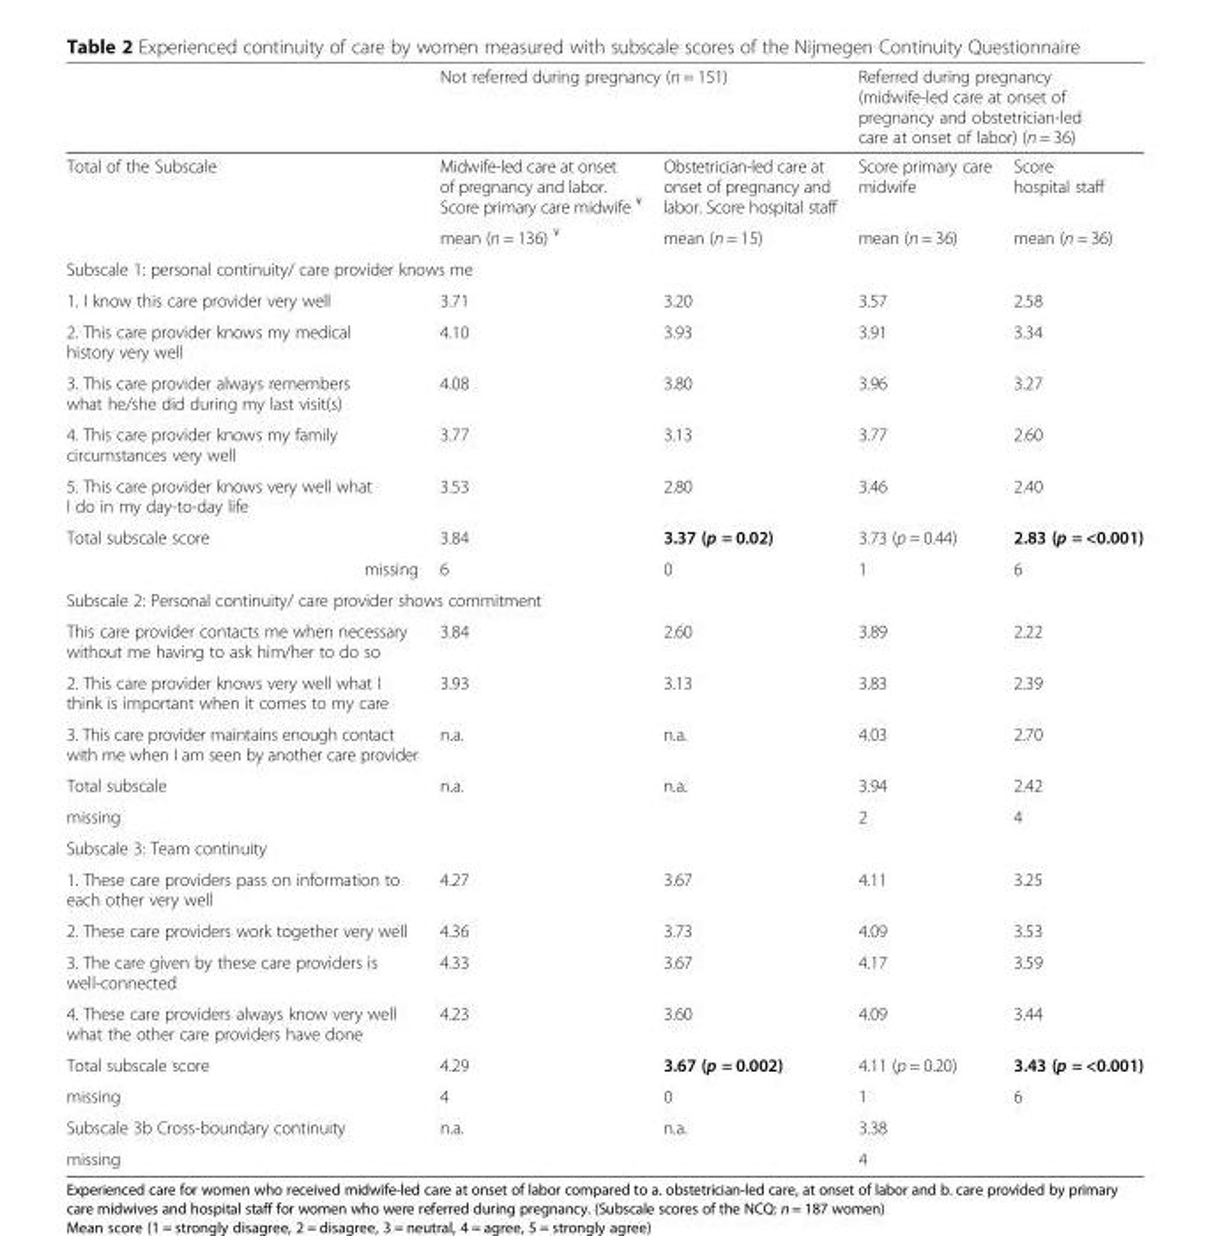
<table><thead><tr><td rowspan="2">Total of the Subscale</td><td colspan="2">Not referred during pregnancy (n = 151)</td><td colspan="2">Referred during pregnancy (midwife-led care at onset of pregnancy and obstetrician-led care at onset of labor) (n = 36)</td></tr><tr><td>Midwife-led care at onset of pregnancy and labor. Score primary care midwife <sup>¥</sup></td><td>Obstetrician-led care at onset of pregnancy and labor. Score hospital staff</td><td>Score primary care midwife</td><td>Score hospital staff</td></tr></thead><tbody><tr><td></td><td>mean (n = 136) <sup>¥</sup></td><td>mean (n = 15)</td><td>mean (n = 36)</td><td>mean (n = 36)</td></tr><tr><td colspan="5">Subscale 1: personal continuity/ care provider knows me</td></tr><tr><td>1. I know this care provider very well</td><td>3.71</td><td>3.20</td><td>3.57</td><td>2.58</td></tr><tr><td>2. This care provider knows my medical history very well</td><td>4.10</td><td>3.93</td><td>3.91</td><td>3.34</td></tr><tr><td>3. This care provider always remembers what he/she did during my last visit(s)</td><td>4.08</td><td>3.80</td><td>3.96</td><td>3.27</td></tr><tr><td>4. This care provider knows my family circumstances very well</td><td>3.77</td><td>3.13</td><td>3.77</td><td>2.60</td></tr><tr><td>5. This care provider knows very well what I do in my day-to-day life</td><td>3.53</td><td>2.80</td><td>3.46</td><td>2.40</td></tr><tr><td>Total subscale score</td><td>3.84</td><td>3.37 (p = 0.02)</td><td>3.73 (p = 0.44)</td><td>2.83 (p = &lt;0.001)</td></tr><tr><td>missing</td><td>6</td><td>0</td><td>1</td><td>6</td></tr><tr><td colspan="5">Subscale 2: Personal continuity/ care provider shows commitment</td></tr><tr><td>This care provider contacts me when necessary without me having to ask him/her to do so</td><td>3.84</td><td>2.60</td><td>3.89</td><td>2.22</td></tr><tr><td>2. This care provider knows very well what I think is important when it comes to my care</td><td>3.93</td><td>3.13</td><td>3.83</td><td>2.39</td></tr><tr><td>3. This care provider maintains enough contact with me when I am seen by another care provider</td><td>n.a.</td><td>n.a.</td><td>4.03</td><td>2.70</td></tr><tr><td>Total subscale</td><td>n.a.</td><td>n.a.</td><td>3.94</td><td>2.42</td></tr><tr><td>missing</td><td></td><td></td><td>2</td><td>4</td></tr><tr><td colspan="5">Subscale 3: Team continuity</td></tr><tr><td>1. These care providers pass on information to each other very well</td><td>4.27</td><td>3.67</td><td>4.11</td><td>3.25</td></tr><tr><td>2. These care providers work together very well</td><td>4.36</td><td>3.73</td><td>4.09</td><td>3.53</td></tr><tr><td>3. The care given by these care providers is well-connected</td><td>4.33</td><td>3.67</td><td>4.17</td><td>3.59</td></tr><tr><td>4. These care providers always know very well what the other care providers have done</td><td>4.23</td><td>3.60</td><td>4.09</td><td>3.44</td></tr><tr><td>Total subscale score</td><td>4.29</td><td>3.67 (p = 0.002)</td><td>4.11 (p = 0.20)</td><td>3.43 (p = &lt;0.001)</td></tr><tr><td>missing</td><td>4</td><td>0</td><td>1</td><td>6</td></tr><tr><td>Subscale 3b Cross-boundary continuity</td><td>n.a.</td><td>n.a.</td><td colspan="2">3.38</td></tr><tr><td>missing</td><td></td><td></td><td colspan="2">4</td></tr></tbody></table>